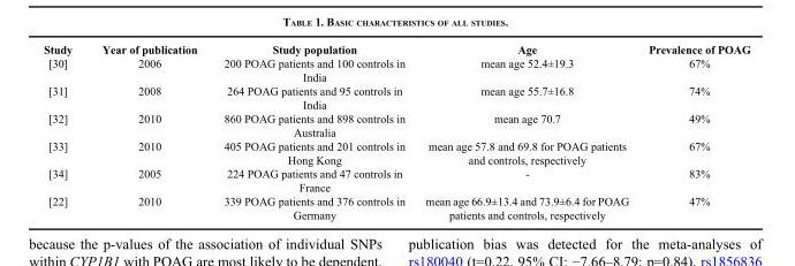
<table><thead><tr><td>Study</td><td>Year of publication</td><td>Study population</td><td>Age</td><td>Prevalence of POAG</td></tr></thead><tbody><tr><td>[30]</td><td>2006</td><td>200 POAG patients and 100 controls in India</td><td>mean age 52.4±19.3</td><td>67%</td></tr><tr><td>[31]</td><td>2008</td><td>264 POAG patients and 95 controls in India</td><td>mean age 55.7±16.8</td><td>74%</td></tr><tr><td>[32]</td><td>2010</td><td>860 POAG patients and 898 controls in Australia</td><td>mean age 70.7</td><td>49%</td></tr><tr><td>[33]</td><td>2010</td><td>405 POAG patients and 201 controls in Hong Kong</td><td>mean age 57.8 and 69.8 for POAG patients and controls, respectively</td><td>67%</td></tr><tr><td>[34]</td><td>2005</td><td>224 POAG patients and 47 controls in France</td><td>-</td><td>83%</td></tr><tr><td>[22]</td><td>2010</td><td>339 POAG patients and 376 controls in Germany</td><td>mean age 66.9±13.4 and 73.9±6.4 for POAG patients and controls, respectively</td><td>47%</td></tr></tbody></table>